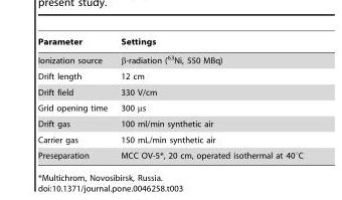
<table><thead><tr><td>Parameter</td><td>Settings</td></tr></thead><tbody><tr><td>Ionization source</td><td>β-radiation (<sup>63</sup>Ni, 550 MBq)</td></tr><tr><td>Drift length</td><td>12 cm</td></tr><tr><td>Drift field</td><td>330 V/cm</td></tr><tr><td>Grid opening time</td><td>300 µs</td></tr><tr><td>Drift gas</td><td>100 ml/min synthetic air</td></tr><tr><td>Carrier gas</td><td>150 mL/min synthetic air</td></tr><tr><td>Preseparation</td><td>MCC OV-5*, 20 cm, operated isothermal at 40°C</td></tr></tbody></table>